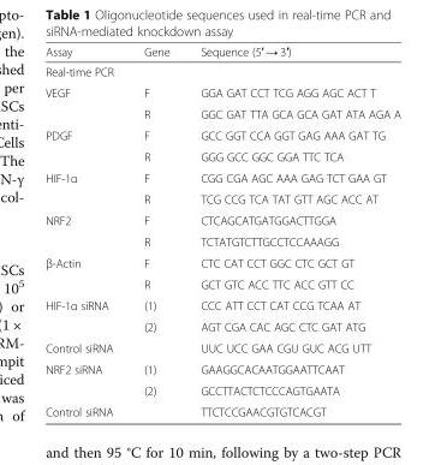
<table><thead><tr><td>Assay</td><td>Gene</td><td>Sequence (5′ → 3′)</td></tr></thead><tbody><tr><td colspan="3">Real-time PCR</td></tr><tr><td rowspan="2">VEGF</td><td>F</td><td>GGA GAT CCT TCG AGG AGC ACT T</td></tr><tr><td>R</td><td>GGC GAT TTA GCA GCA GAT ATA AGA A</td></tr><tr><td rowspan="2">PDGF</td><td>F</td><td>GCC GGT CCA GGT GAG AAA GAT TG</td></tr><tr><td>R</td><td>GGG GCC GGC GGA TTC TCA</td></tr><tr><td rowspan="2">HIF-1α</td><td>F</td><td>CGG CGA AGC AAA GAG TCT GAA GT</td></tr><tr><td>R</td><td>TCG CCG TCA TAT GTT AGC ACC AT</td></tr><tr><td rowspan="2">NRF2</td><td>F</td><td>CTCAGCATGATGGACTTGGA</td></tr><tr><td>R</td><td>TCTATGTCTTGCCTCCAAAGG</td></tr><tr><td rowspan="2">β-Actin</td><td>F</td><td>CTC CAT CCT GGC CTC GCT GT</td></tr><tr><td>R</td><td>GCT GTC ACC TTC ACC GTT CC</td></tr><tr><td rowspan="2">HIF-1α siRNA</td><td>(1)</td><td>CCC ATT CCT CAT CCG TCAA AT</td></tr><tr><td>(2)</td><td>AGT CGA CAC AGC CTC GAT ATG</td></tr><tr><td>Control siRNA</td><td></td><td>UUC UCC GAA CGU GUC ACG UTT</td></tr><tr><td rowspan="2">NRF2 siRNA</td><td>(1)</td><td>GAAGGCACAATGGAATTCAAT</td></tr><tr><td>(2)</td><td>GCCTTACTCTCCCAGTGAATA</td></tr><tr><td>Control siRNA</td><td></td><td>TTCTCCGAACGTGTCACGT</td></tr></tbody></table>